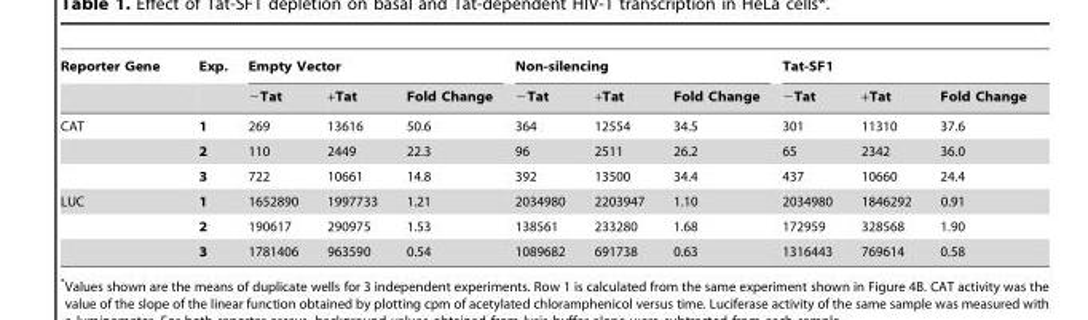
<table><thead><tr><td rowspan="2">Reporter Gene</td><td rowspan="2">Exp.</td><td colspan="3">Empty Vector</td><td colspan="3">Non-silencing</td><td colspan="3">Tat-SF1</td></tr><tr><td>−Tat</td><td>+Tat</td><td>Fold Change</td><td>−Tat</td><td>+Tat</td><td>Fold Change</td><td>−Tat</td><td>+Tat</td><td>Fold Change</td></tr></thead><tbody><tr><td rowspan="3">CAT</td><td>1</td><td>269</td><td>13616</td><td>50.6</td><td>364</td><td>12554</td><td>34.5</td><td>301</td><td>11310</td><td>37.6</td></tr><tr><td>2</td><td>110</td><td>2449</td><td>22.3</td><td>96</td><td>2511</td><td>26.2</td><td>65</td><td>2342</td><td>36.0</td></tr><tr><td>3</td><td>722</td><td>10661</td><td>14.8</td><td>392</td><td>13500</td><td>34.4</td><td>437</td><td>10660</td><td>24.4</td></tr><tr><td rowspan="3">LUC</td><td>1</td><td>1652890</td><td>1997733</td><td>1.21</td><td>2034980</td><td>2203947</td><td>1.10</td><td>2034980</td><td>1846292</td><td>0.91</td></tr><tr><td>2</td><td>190617</td><td>290975</td><td>1.53</td><td>138561</td><td>233280</td><td>1.68</td><td>172959</td><td>328568</td><td>1.90</td></tr><tr><td>3</td><td>1781406</td><td>963590</td><td>0.54</td><td>1089682</td><td>691738</td><td>0.63</td><td>1316443</td><td>769614</td><td>0.58</td></tr></tbody></table>